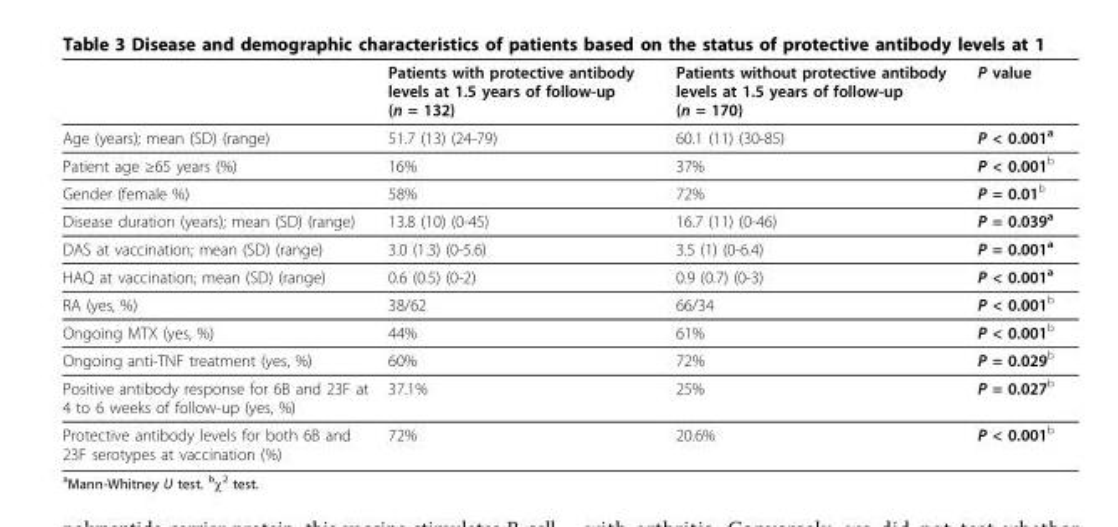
<table><thead><tr><td></td><td>Patients with protective antibody levels at 1.5 years of follow-up (n = 132)</td><td>Patients without protective antibody levels at 1.5 years of follow-up (n = 170)</td><td>P value</td></tr></thead><tbody><tr><td>Age (years); mean (SD) (range)</td><td>51.7 (13) (24-79)</td><td>60.1 (11) (30-85)</td><td>P &lt; 0.001<sup>a</sup></td></tr><tr><td>Patient age ≥65 years (%)</td><td>16%</td><td>37%</td><td>P &lt; 0.001<sup>b</sup></td></tr><tr><td>Gender (female %)</td><td>58%</td><td>72%</td><td>P = 0.01<sup>b</sup></td></tr><tr><td>Disease duration (years); mean (SD) (range)</td><td>13.8 (10) (0-45)</td><td>16.7 (11) (0-46)</td><td>P = 0.039<sup>a</sup></td></tr><tr><td>DAS at vaccination; mean (SD) (range)</td><td>3.0 (1.3) (0-5.6)</td><td>3.5 (1) (0-6.4)</td><td>P = 0.001<sup>a</sup></td></tr><tr><td>HAQ at vaccination; mean (SD) (range)</td><td>0.6 (0.5) (0-2)</td><td>0.9 (0.7) (0-3)</td><td>P &lt; 0.001<sup>a</sup></td></tr><tr><td>RA (yes, %)</td><td>38/62</td><td>66/34</td><td>P &lt; 0.001<sup>b</sup></td></tr><tr><td>Ongoing MTX (yes, %)</td><td>44%</td><td>61%</td><td>P &lt; 0.001<sup>b</sup></td></tr><tr><td>Ongoing anti-TNF treatment (yes, %)</td><td>60%</td><td>72%</td><td>P = 0.029<sup>b</sup></td></tr><tr><td>Positive antibody response for 6B and 23F at 4 to 6 weeks of follow-up (yes, %)</td><td>37.1%</td><td>25%</td><td>P = 0.027<sup>b</sup></td></tr><tr><td>Protective antibody levels for both 6B and 23F serotypes at vaccination (%)</td><td>72%</td><td>20.6%</td><td>P &lt; 0.001<sup>b</sup></td></tr></tbody></table>